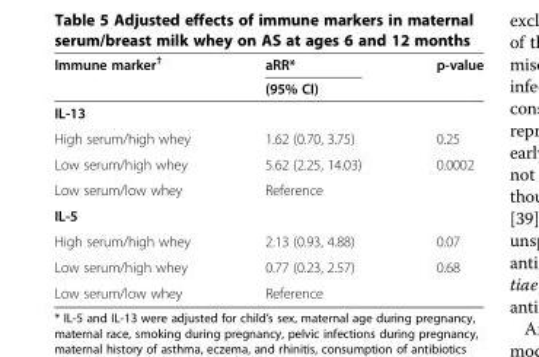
<table><thead><tr><td rowspan="2">Immune marker<sup>†</sup></td><td rowspan="2">aRR* (95% CI)</td><td rowspan="2">p-value</td></tr><tr></tr></thead><tbody><tr><td colspan="3">IL-13</td></tr><tr><td>High serum/high whey</td><td>1.62 (0.70, 3.75)</td><td>0.25</td></tr><tr><td>Low serum/high whey</td><td>5.62 (2.25, 14.03)</td><td>0.0002</td></tr><tr><td>Low serum/low whey</td><td>Reference</td><td></td></tr><tr><td colspan="3">IL-5</td></tr><tr><td>High serum/high whey</td><td>2.13 (0.93, 4.88)</td><td>0.07</td></tr><tr><td>Low serum/high whey</td><td>0.77 (0.23, 2.57)</td><td>0.68</td></tr><tr><td>Low serum/low whey</td><td>Reference</td><td></td></tr></tbody></table>